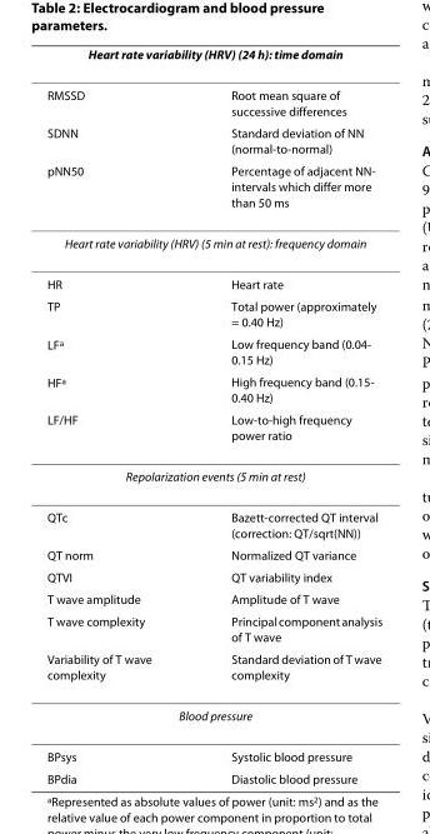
<table><thead><tr><td colspan="2">Heart rate variability (HRV) (24 h): time domain</td></tr><tr><td>RMSSD</td><td>Root mean square of successive differences</td></tr></thead><tbody><tr><td>SDNN</td><td>Standard deviation of NN (normal-to-normal)</td></tr><tr><td>pNN50</td><td>Percentage of adjacent NN- intervals which differ more than 50 ms</td></tr><tr><td colspan="2">Heart rate variability (HRV) (5 min at rest): frequency domain</td></tr><tr><td>HR</td><td>Heart rate</td></tr><tr><td>TP</td><td>Total power (approximately = 0.40 Hz)</td></tr><tr><td>LF<sup>a</sup></td><td>Low frequency band (0.04- 0.15 Hz)</td></tr><tr><td>HF<sup>a</sup></td><td>High frequency band (0.15- 0.40 Hz)</td></tr><tr><td>LF/HF</td><td>Low-to-high frequency power ratio</td></tr><tr><td colspan="2">Repolarization events (5 min at rest)</td></tr><tr><td>QTc</td><td>Bazett-corrected QT interval (correction: QT/sqrt(NN))</td></tr><tr><td>QT norm</td><td>Normalized QT variance</td></tr><tr><td>QTVI</td><td>QT variability index</td></tr><tr><td>T wave amplitude</td><td>Amplitude of T wave</td></tr><tr><td>T wave complexity</td><td>Principal component analysis of T wave</td></tr><tr><td>Variability of T wave complexity</td><td>Standard deviation of T wave complexity</td></tr><tr><td colspan="2">Blood pressure</td></tr><tr><td>BPsys</td><td>Systolic blood pressure</td></tr><tr><td>BPdia</td><td>Diastolic blood pressure</td></tr></tbody></table>